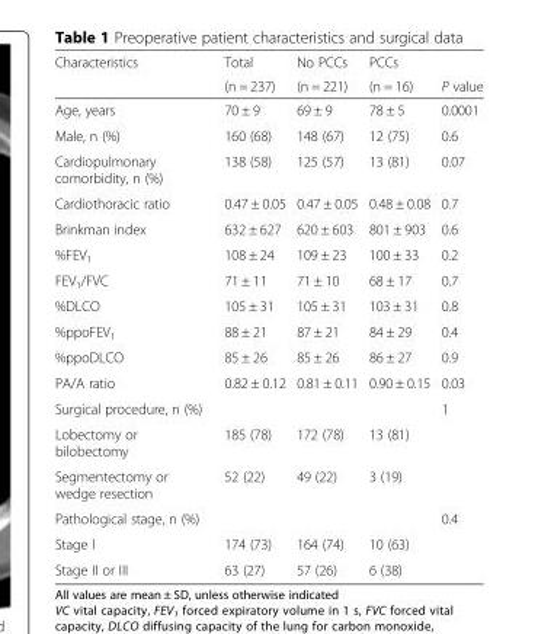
<table><thead><tr><td rowspan="2">Characteristics</td><td rowspan="2">Total (n = 237)</td><td rowspan="2">No PCCs (n = 221)</td><td rowspan="2">PCCs (n = 16)</td><td rowspan="2">P value</td></tr><tr></tr></thead><tbody><tr><td>Age, years</td><td>70 ± 9</td><td>69 ± 9</td><td>78 ± 5</td><td>0.0001</td></tr><tr><td>Male, n (%)</td><td>160 (68)</td><td>148 (67)</td><td>12 (75)</td><td>0.6</td></tr><tr><td>Cardiopulmonary comorbidity, n (%)</td><td>138 (58)</td><td>125 (57)</td><td>13 (81)</td><td>0.07</td></tr><tr><td>Cardiothoracic ratio</td><td>0.47 ± 0.05</td><td>0.47 ± 0.05</td><td>0.48 ± 0.08</td><td>0.7</td></tr><tr><td>Brinkman index</td><td>632 ± 627</td><td>620 ± 603</td><td>801 ± 903</td><td>0.6</td></tr><tr><td>%FEV<sub>1</sub></td><td>108 ± 24</td><td>109 ± 23</td><td>100 ± 33</td><td>0.2</td></tr><tr><td>FEV<sub>1</sub>/FVC</td><td>71 ± 11</td><td>71 ± 10</td><td>68 ± 17</td><td>0.7</td></tr><tr><td>%DLCO</td><td>105 ± 31</td><td>105 ± 31</td><td>103 ± 31</td><td>0.8</td></tr><tr><td>%ppoFEV<sub>1</sub></td><td>88 ± 21</td><td>87 ± 21</td><td>84 ± 29</td><td>0.4</td></tr><tr><td>%ppoDLCO</td><td>85 ± 26</td><td>85 ± 26</td><td>86 ± 27</td><td>0.9</td></tr><tr><td>PA/A ratio</td><td>0.82 ± 0.12</td><td>0.81 ± 0.11</td><td>0.90 ± 0.15</td><td>0.03</td></tr><tr><td>Surgical procedure, n (%)</td><td></td><td></td><td></td><td>1</td></tr><tr><td>Lobectomy or bilobectomy</td><td>185 (78)</td><td>172 (78)</td><td>13 (81)</td><td rowspan="2"></td></tr><tr><td>Segmentectomy or wedge resection</td><td>52 (22)</td><td>49 (22)</td><td>3 (19)</td></tr><tr><td>Pathological stage, n (%)</td><td></td><td></td><td></td><td>0.4</td></tr><tr><td>Stage I</td><td>174 (73)</td><td>164 (74)</td><td>10 (63)</td><td rowspan="2"></td></tr><tr><td>Stage II or III</td><td>63 (27)</td><td>57 (26)</td><td>6 (38)</td></tr></tbody></table>